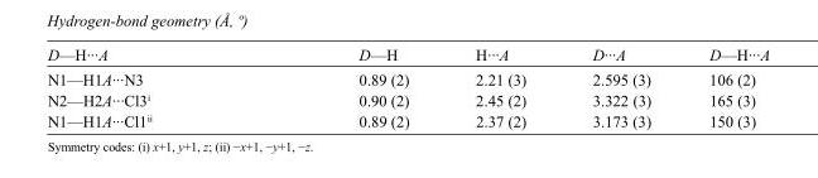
<table><tbody><tr><td>D—H···A</td><td>D—H</td><td>H···A</td><td>D···A</td><td>D—H···A</td></tr><tr><td>N1—H1A···N3</td><td>0.89 (2)</td><td>2.21 (3)</td><td>2.595 (3)</td><td>106 (2)</td></tr><tr><td>N2—H2A···Cl3<sup>i</sup></td><td>0.90 (2)</td><td>2.45 (2)</td><td>3.322 (3)</td><td>165 (3)</td></tr><tr><td>N1—H1A···Cl1<sup>ii</sup></td><td>0.89 (2)</td><td>2.37 (2)</td><td>3.173 (3)</td><td>150 (3)</td></tr></tbody></table>